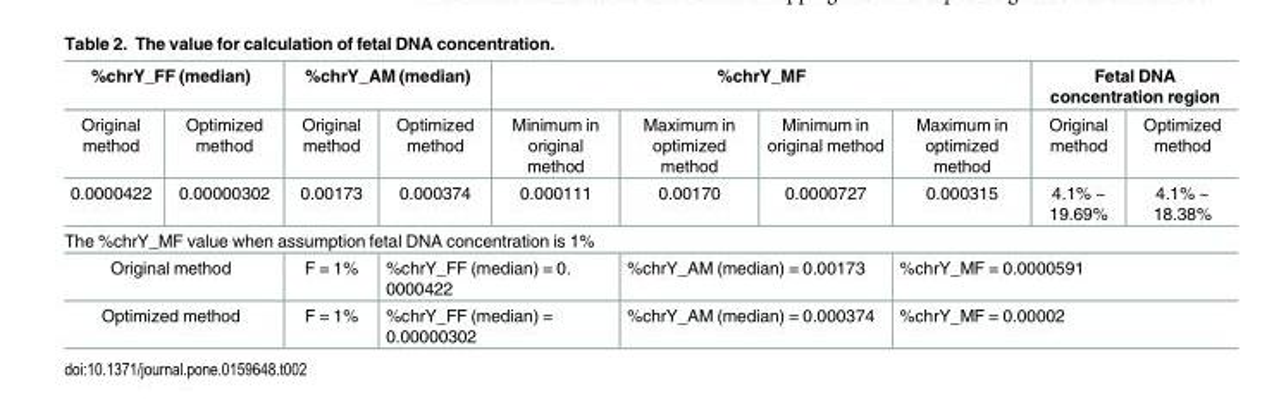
<table><thead><tr><td colspan="2">%chrY_FF (median)</td><td colspan="2">%chrY_AM (median)</td><td colspan="4">%chrY_MF</td><td colspan="2">Fetal DNA concentration region</td></tr><tr><td>Original method</td><td>Optimized method</td><td>Original method</td><td>Optimized method</td><td>Minimum in original method</td><td>Maximum in optimized method</td><td>Minimum in original method</td><td>Maximum in optimized method</td><td>Original method</td><td>Optimized method</td></tr></thead><tbody><tr><td>0.0000422</td><td>0.00000302</td><td>0.00173</td><td>0.000374</td><td>0.000111</td><td>0.00170</td><td>0.0000727</td><td>0.000315</td><td>4.1% ~ 19.69%</td><td>4.1% ~ 18.38%</td></tr><tr><td colspan="10">The %chrY_MF value when assumption fetal DNA concentration is 1%</td></tr><tr><td colspan="2">Original method</td><td>F = 1%</td><td colspan="2">%chrY_FF (median) = 0. 0000422</td><td colspan="2">%chrY_AM (median) = 0.00173</td><td colspan="3">%chrY_MF = 0.0000591</td></tr><tr><td colspan="2">Optimized method</td><td>F = 1%</td><td colspan="2">%chrY_FF (median) = 0.00000302</td><td colspan="2">%chrY_AM (median) = 0.000374</td><td colspan="3">%chrY_MF = 0.00002</td></tr></tbody></table>